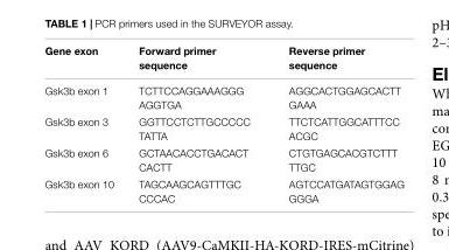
<table><thead><tr><td>Gene exon</td><td>Forward primer sequence</td><td>Reverse primer sequence</td></tr></thead><tbody><tr><td>Gsk3b exon 1</td><td>TCTTCCAGGAAAGGG AGGTGA</td><td>AGGCACTGGAGCACTT GAAA</td></tr><tr><td>Gsk3b exon 3</td><td>GGTTCCTCTTGCCCCC TATTA</td><td>TTCTCATTGGCATTTCC ACGC</td></tr><tr><td>Gsk3b exon 6</td><td>GCTAACACCTGACACT CACTT</td><td>CTGTGAGCACGTCTTT TTGC</td></tr><tr><td>Gsk3b exon 10</td><td>TAGCAAGCAGTTTGC CCCAC</td><td>AGTCCATGATAGTGGAG GGGA</td></tr></tbody></table>